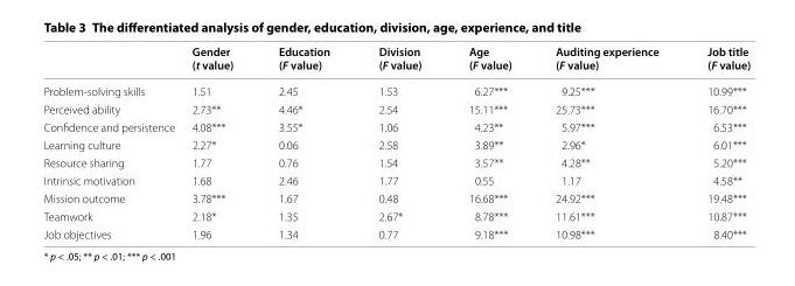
<table><thead><tr><td></td><td>Gender (t value)</td><td>Education (F value)</td><td>Division (F value)</td><td>Age (F value)</td><td>Auditing experience (F value)</td><td>Job title (F value)</td></tr></thead><tbody><tr><td>Problem‑solving skills</td><td>1.51</td><td>2.45</td><td>1.53</td><td>6.27***</td><td>9.25***</td><td>10.99***</td></tr><tr><td>Perceived ability</td><td>2.73**</td><td>4.46*</td><td>2.54</td><td>15.11***</td><td>25.73***</td><td>16.70***</td></tr><tr><td>Confidence and persistence</td><td>4.08***</td><td>3.55*</td><td>1.06</td><td>4.23**</td><td>5.97***</td><td>6.53***</td></tr><tr><td>Learning culture</td><td>2.27*</td><td>0.06</td><td>2.58</td><td>3.89**</td><td>2.96*</td><td>6.01***</td></tr><tr><td>Resource sharing</td><td>1.77</td><td>0.76</td><td>1.54</td><td>3.57**</td><td>4.28**</td><td>5.20***</td></tr><tr><td>Intrinsic motivation</td><td>1.68</td><td>2.46</td><td>1.77</td><td>0.55</td><td>1.17</td><td>4.58**</td></tr><tr><td>Mission outcome</td><td>3.78***</td><td>1.67</td><td>0.48</td><td>16.68***</td><td>24.92***</td><td>19.48***</td></tr><tr><td>Teamwork</td><td>2.18*</td><td>1.35</td><td>2.67*</td><td>8.78***</td><td>11.61***</td><td>10.87***</td></tr><tr><td>Job objectives</td><td>1.96</td><td>1.34</td><td>0.77</td><td>9.18***</td><td>10.98***</td><td>8.40***</td></tr></tbody></table>